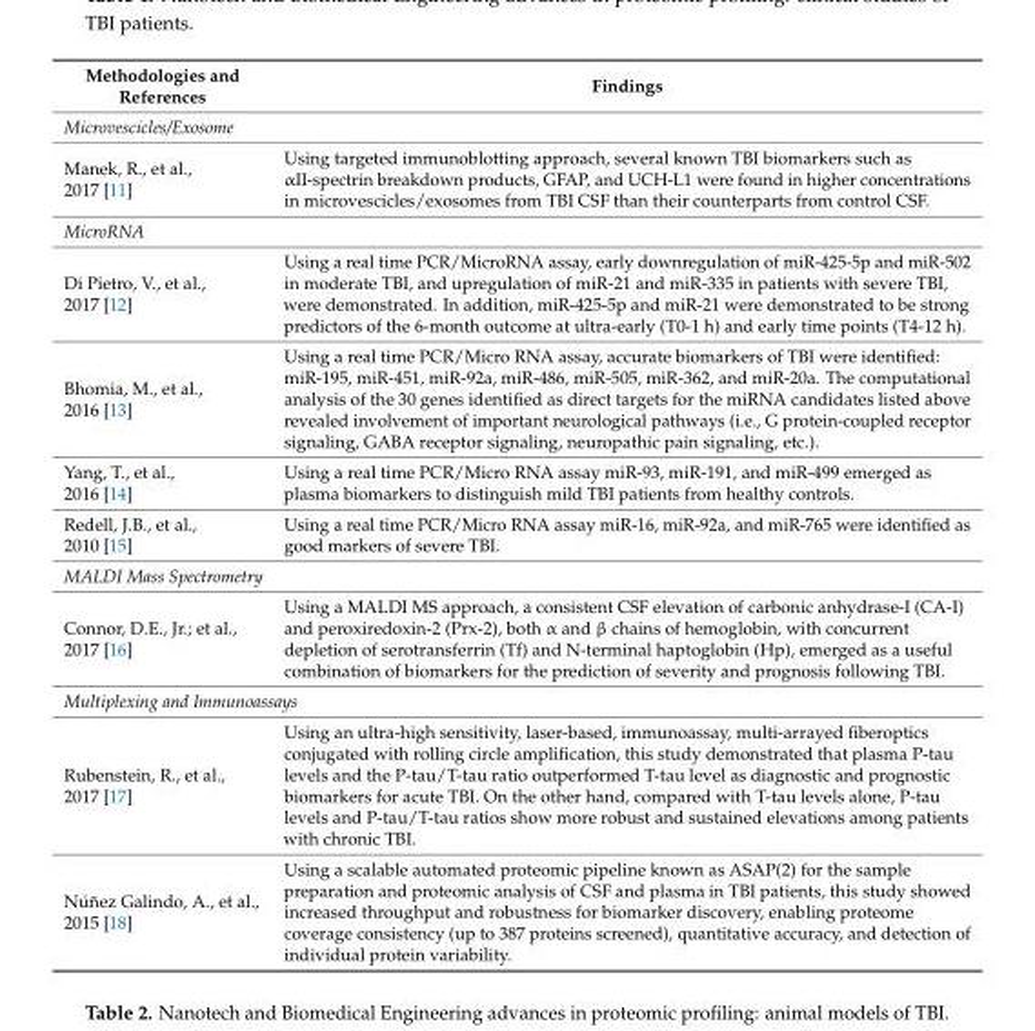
<table><thead><tr><td>Methodologies and References</td><td>Findings</td></tr></thead><tbody><tr><td colspan="2">Microvescicles/Exosome</td></tr><tr><td>Manek, R., et al., 2017 [11]</td><td>Using targeted immunoblotting approach, several known TBI biomarkers such as αII-spectrin breakdown products, GFAP, and UCH-L1 were found in higher concentrations in microvescicles/exosomes from TBI CSF than their counterparts from control CSF.</td></tr><tr><td colspan="2">MicroRNA</td></tr><tr><td>Di Pietro, V., et al., 2017 [12]</td><td>Using a real time PCR/MicroRNA assay, early downregulation of miR-425-5p and miR-502 in moderate TBI, and upregulation of miR-21 and miR-335 in patients with severe TBI, were demonstrated. In addition, miR-425-5p and miR-21 were demonstrated to be strong predictors of the 6-month outcome at ultra-early (T0-1 h) and early time points (T4-12 h).</td></tr><tr><td>Bhomia, M., et al., 2016 [13]</td><td>Using a real time PCR/Micro RNA assay, accurate biomarkers of TBI were identified: miR-195, miR-451, miR-92a, miR-486, miR-505, miR-362, and miR-20a. The computational analysis of the 30 genes identified as direct targets for the miRNA candidates listed above revealed involvement of important neurological pathways (i.e., G protein-coupled receptor signaling, GABA receptor signaling, neuropathic pain signaling, etc.).</td></tr><tr><td>Yang, T., et al., 2016 [14]</td><td>Using a real time PCR/Micro RNA assay miR-93, miR-191, and miR-499 emerged as plasma biomarkers to distinguish mild TBI patients from healthy controls.</td></tr><tr><td>Redell, J.B., et al., 2010 [15]</td><td>Using a real time PCR/Micro RNA assay miR-16, miR-92a, and miR-765 were identified as good markers of severe TBI.</td></tr><tr><td colspan="2">MALDI Mass Spectrometry</td></tr><tr><td>Connor, D.E., Jr.; et al., 2017 [16]</td><td>Using a MALDI MS approach, a consistent CSF elevation of carbonic anhydrase-I (CA-I) and peroxiredoxin-2 (Prx-2), both α and β chains of hemoglobin, with concurrent depletion of serotransferrin (Tf) and N-terminal haptoglobin (Hp), emerged as a useful combination of biomarkers for the prediction of severity and prognosis following TBI.</td></tr><tr><td colspan="2">Multiplexing and Immunoassays</td></tr><tr><td>Rubenstein, R., et al., 2017 [17]</td><td>Using an ultra-high sensitivity, laser-based, immunoassay, multi-arrayed fiberoptics conjugated with rolling circle amplification, this study demonstrated that plasma P-tau levels and the P-tau/T-tau ratio outperformed T-tau level as diagnostic and prognostic biomarkers for acute TBI. On the other hand, compared with T-tau levels alone, P-tau levels and P-tau/T-tau ratios show more robust and sustained elevations among patients with chronic TBI.</td></tr><tr><td>Núñez Galindo, A., et al., 2015 [18]</td><td>Using a scalable automated proteomic pipeline known as ASAP(2) for the sample preparation and proteomic analysis of CSF and plasma in TBI patients, this study showed increased throughput and robustness for biomarker discovery, enabling proteome coverage consistency (up to 387 proteins screened), quantitative accuracy, and detection of individual protein variability.</td></tr></tbody></table>